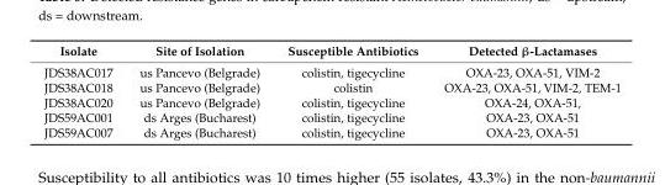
<table><thead><tr><td>Isolate</td><td>Site of Isolation</td><td>Susceptible Antibiotics</td><td>Detected β-Lactamases</td></tr></thead><tbody><tr><td>JDS38AC017</td><td>us Pancevo (Belgrade)</td><td>colistin, tigecycline</td><td>OXA-23, OXA-51, VIM-2</td></tr><tr><td>JDS38AC018</td><td>us Pancevo (Belgrade)</td><td>colistin</td><td>OXA-23, OXA-51, VIM-2, TEM-1</td></tr><tr><td>JDS38AC020</td><td>us Pancevo (Belgrade)</td><td>colistin, tigecycline</td><td>OXA-24, OXA-51,</td></tr><tr><td>JDS59AC001</td><td>ds Arges (Bucharest)</td><td>colistin, tigecycline</td><td>OXA-23, OXA-51</td></tr><tr><td>JDS59AC007</td><td>ds Arges (Bucharest)</td><td>colistin, tigecycline</td><td>OXA-23, OXA-51</td></tr></tbody></table>